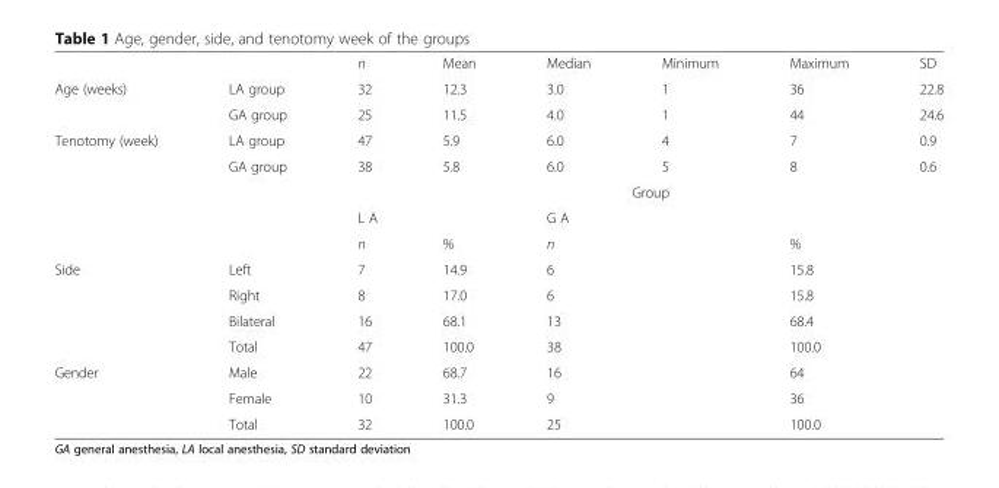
<table><thead><tr><td></td><td></td><td>n</td><td>Mean</td><td>Median</td><td>Minimum</td><td>Maximum</td><td>SD</td></tr></thead><tbody><tr><td rowspan="2">Age (weeks)</td><td>LA group</td><td>32</td><td>12.3</td><td>3.0</td><td>1</td><td>36</td><td>22.8</td></tr><tr><td>GA group</td><td>25</td><td>11.5</td><td>4.0</td><td>1</td><td>44</td><td>24.6</td></tr><tr><td rowspan="2">Tenotomy (week)</td><td>LA group</td><td>47</td><td>5.9</td><td>6.0</td><td>4</td><td>7</td><td>0.9</td></tr><tr><td>GA group</td><td>38</td><td>5.8</td><td>6.0</td><td>5</td><td>8</td><td>0.6</td></tr><tr><td rowspan="3" colspan="2"></td><td colspan="6">Group</td></tr><tr><td colspan="2">L A</td><td colspan="4">G A</td></tr><tr><td>n</td><td>%</td><td colspan="2">n</td><td colspan="2">%</td></tr><tr><td rowspan="4">Side</td><td>Left</td><td>7</td><td>14.9</td><td colspan="2">6</td><td colspan="2">15.8</td></tr><tr><td>Right</td><td>8</td><td>17.0</td><td colspan="2">6</td><td colspan="2">15.8</td></tr><tr><td>Bilateral</td><td>16</td><td>68.1</td><td colspan="2">13</td><td colspan="2">68.4</td></tr><tr><td>Total</td><td>47</td><td>100.0</td><td colspan="2">38</td><td colspan="2">100.0</td></tr><tr><td rowspan="3">Gender</td><td>Male</td><td>22</td><td>68.7</td><td colspan="2">16</td><td colspan="2">64</td></tr><tr><td>Female</td><td>10</td><td>31.3</td><td colspan="2">9</td><td colspan="2">36</td></tr><tr><td>Total</td><td>32</td><td>100.0</td><td colspan="2">25</td><td colspan="2">100.0</td></tr></tbody></table>